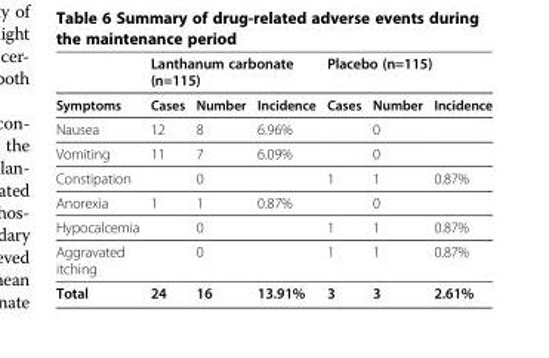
<table><thead><tr><td rowspan="2">Symptoms</td><td colspan="3">Lanthanum carbonate (n=115)</td><td colspan="3">Placebo (n=115)</td></tr><tr><td>Cases</td><td>Number</td><td>Incidence</td><td>Cases</td><td>Number</td><td>Incidence</td></tr></thead><tbody><tr><td>Nausea</td><td>12</td><td>8</td><td>6.96%</td><td></td><td>0</td><td></td></tr><tr><td>Vomiting</td><td>11</td><td>7</td><td>6.09%</td><td></td><td>0</td><td></td></tr><tr><td>Constipation</td><td></td><td>0</td><td></td><td>1</td><td>1</td><td>0.87%</td></tr><tr><td>Anorexia</td><td>1</td><td>1</td><td>0.87%</td><td></td><td>0</td><td></td></tr><tr><td>Hypocalcemia</td><td></td><td>0</td><td></td><td>1</td><td>1</td><td>0.87%</td></tr><tr><td>Aggravated itching</td><td></td><td>0</td><td></td><td>1</td><td>1</td><td>0.87%</td></tr><tr><td>Total</td><td>24</td><td>16</td><td>13.91%</td><td>3</td><td>3</td><td>2.61%</td></tr></tbody></table>